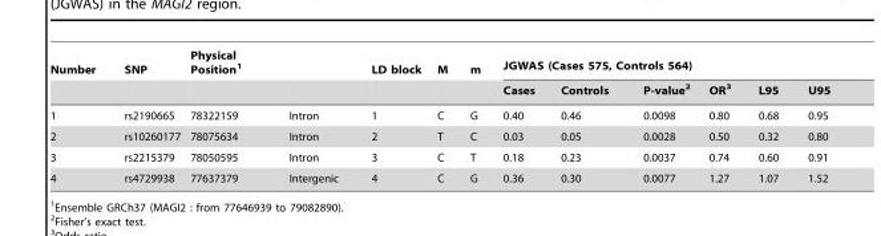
<table><thead><tr><td rowspan="2">Number</td><td rowspan="2">SNP</td><td rowspan="2">Physical Position<sup>1</sup></td><td rowspan="2"></td><td rowspan="2">LD block</td><td rowspan="2">M</td><td rowspan="2">m</td><td colspan="6">JGWAS (Cases 575, Controls 564)</td></tr><tr><td>Cases</td><td>Controls</td><td>P-value<sup>2</sup></td><td>OR<sup>3</sup></td><td>L95</td><td>U95</td></tr></thead><tbody><tr><td>1</td><td>rs2190665</td><td>78322159</td><td>Intron</td><td>1</td><td>C</td><td>G</td><td>0.40</td><td>0.46</td><td>0.0098</td><td>0.80</td><td>0.68</td><td>0.95</td></tr><tr><td>2</td><td>rs10260177</td><td>78075634</td><td>Intron</td><td>2</td><td>T</td><td>C</td><td>0.03</td><td>0.05</td><td>0.0028</td><td>0.50</td><td>0.32</td><td>0.80</td></tr><tr><td>3</td><td>rs2215379</td><td>78050595</td><td>Intron</td><td>3</td><td>C</td><td>T</td><td>0.18</td><td>0.23</td><td>0.0037</td><td>0.74</td><td>0.60</td><td>0.91</td></tr><tr><td>4</td><td>rs4729938</td><td>77637379</td><td>Intergenic</td><td>4</td><td>C</td><td>G</td><td>0.36</td><td>0.30</td><td>0.0077</td><td>1.27</td><td>1.07</td><td>1.52</td></tr></tbody></table>